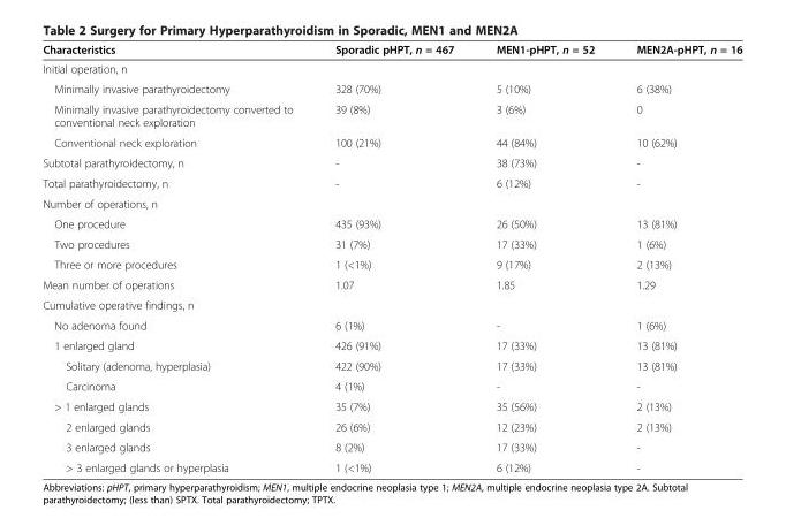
<table><thead><tr><td>Characteristics</td><td>Sporadic pHPT, n = 467</td><td>MEN1-pHPT, n = 52</td><td>MEN2A-pHPT, n = 16</td></tr></thead><tbody><tr><td colspan="4">Initial operation, n</td></tr><tr><td>Minimally invasive parathyroidectomy</td><td>328 (70%)</td><td>5 (10%)</td><td>6 (38%)</td></tr><tr><td>Minimally invasive parathyroidectomy converted to conventional neck exploration</td><td>39 (8%)</td><td>3 (6%)</td><td>0</td></tr><tr><td>Conventional neck exploration</td><td>100 (21%)</td><td>44 (84%)</td><td>10 (62%)</td></tr><tr><td>Subtotal parathyroidectomy, n</td><td>-</td><td>38 (73%)</td><td>-</td></tr><tr><td>Total parathyroidectomy, n</td><td>-</td><td>6 (12%)</td><td>-</td></tr><tr><td colspan="4">Number of operations, n</td></tr><tr><td>One procedure</td><td>435 (93%)</td><td>26 (50%)</td><td>13 (81%)</td></tr><tr><td>Two procedures</td><td>31 (7%)</td><td>17 (33%)</td><td>1 (6%)</td></tr><tr><td>Three or more procedures</td><td>1 (&lt;1%)</td><td>9 (17%)</td><td>2 (13%)</td></tr><tr><td>Mean number of operations</td><td>1.07</td><td>1.85</td><td>1.29</td></tr><tr><td colspan="4">Cumulative operative findings, n</td></tr><tr><td>No adenoma found</td><td>6 (1%)</td><td>-</td><td>1 (6%)</td></tr><tr><td>1 enlarged gland</td><td>426 (91%)</td><td>17 (33%)</td><td>13 (81%)</td></tr><tr><td>Solitary (adenoma, hyperplasia)</td><td>422 (90%)</td><td>17 (33%)</td><td>13 (81%)</td></tr><tr><td>Carcinoma</td><td>4 (1%)</td><td>-</td><td>-</td></tr><tr><td>&gt; 1 enlarged glands</td><td>35 (7%)</td><td>35 (56%)</td><td>2 (13%)</td></tr><tr><td>2 enlarged glands</td><td>26 (6%)</td><td>12 (23%)</td><td>2 (13%)</td></tr><tr><td>3 enlarged glands</td><td>8 (2%)</td><td>17 (33%)</td><td>-</td></tr><tr><td>&gt; 3 enlarged glands or hyperplasia</td><td>1 (&lt;1%)</td><td>6 (12%)</td><td>-</td></tr></tbody></table>